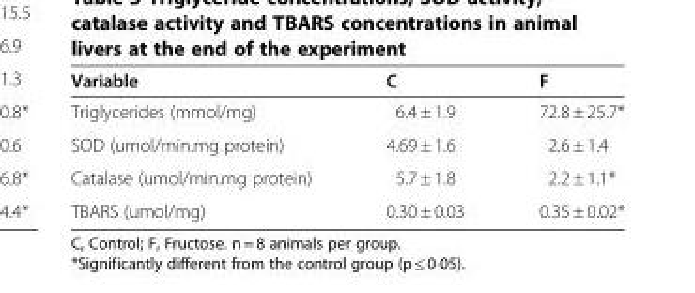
<table><thead><tr><td>Variable</td><td>C</td><td>F</td></tr></thead><tbody><tr><td>Triglycerides (mmol/mg)</td><td>6.4 ± 1.9</td><td>72.8 ± 25.7*</td></tr><tr><td>SOD (umol/min.mg protein)</td><td>4.69 ± 1.6</td><td>2.6 ± 1.4</td></tr><tr><td>Catalase (umol/min.mg protein)</td><td>5.7 ± 1.8</td><td>2.2 ± 1.1*</td></tr><tr><td>TBARS (umol/mg)</td><td>0.30 ± 0.03</td><td>0.35 ± 0.02*</td></tr></tbody></table>